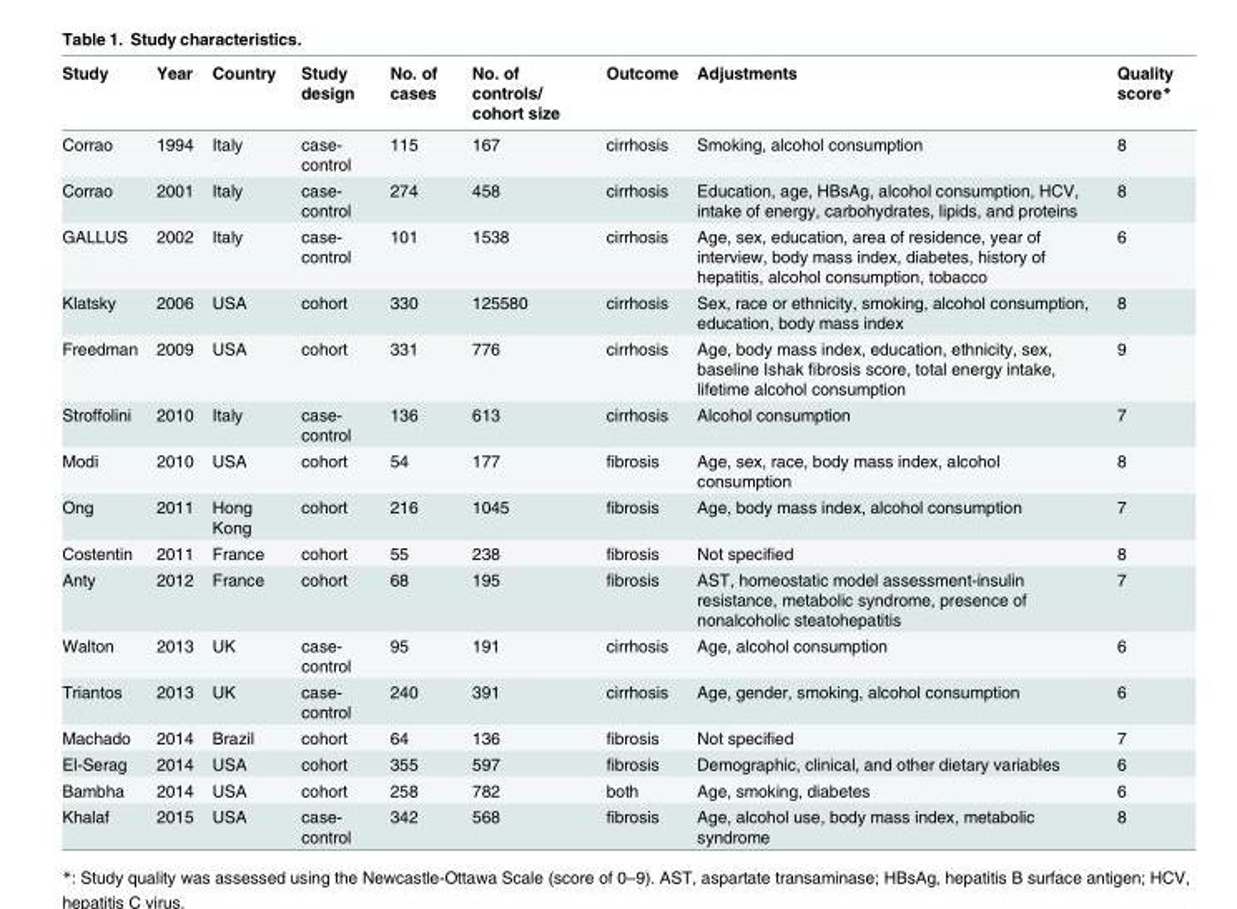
<table><thead><tr><td>Study</td><td>Year</td><td>Country</td><td>Study design</td><td>No. of cases</td><td>No. of controls/ cohort size</td><td>Outcome</td><td>Adjustments</td><td>Quality score*</td></tr></thead><tbody><tr><td>Corrao</td><td>1994</td><td>Italy</td><td>case- control</td><td>115</td><td>167</td><td>cirrhosis</td><td>Smoking, alcohol consumption</td><td>8</td></tr><tr><td>Corrao</td><td>2001</td><td>Italy</td><td>case- control</td><td>274</td><td>458</td><td>cirrhosis</td><td>Education, age, HBsAg, alcohol consumption, HCV, intake of energy, carbohydrates, lipids, and proteins</td><td>8</td></tr><tr><td>GALLUS</td><td>2002</td><td>Italy</td><td>case- control</td><td>101</td><td>1538</td><td>cirrhosis</td><td>Age, sex, education, area of residence, year of interview, body mass index, diabetes, history of hepatitis, alcohol consumption, tobacco</td><td>6</td></tr><tr><td>Klatsky</td><td>2006</td><td>USA</td><td>cohort</td><td>330</td><td>125580</td><td>cirrhosis</td><td>Sex, race or ethnicity, smoking, alcohol consumption, education, body mass index</td><td>8</td></tr><tr><td>Freedman</td><td>2009</td><td>USA</td><td>cohort</td><td>331</td><td>776</td><td>cirrhosis</td><td>Age, body mass index, education, ethnicity, sex, baseline Ishak fibrosis score, total energy intake, lifetime alcohol consumption</td><td>9</td></tr><tr><td>Stroffolini</td><td>2010</td><td>Italy</td><td>case- control</td><td>136</td><td>613</td><td>cirrhosis</td><td>Alcohol consumption</td><td>7</td></tr><tr><td>Modi</td><td>2010</td><td>USA</td><td>cohort</td><td>54</td><td>177</td><td>fibrosis</td><td>Age, sex, race, body mass index, alcohol consumption</td><td>8</td></tr><tr><td>Ong</td><td>2011</td><td>Hong Kong</td><td>cohort</td><td>216</td><td>1045</td><td>fibrosis</td><td>Age, body mass index, alcohol consumption</td><td>7</td></tr><tr><td>Costentin</td><td>2011</td><td>France</td><td>cohort</td><td>55</td><td>238</td><td>fibrosis</td><td>Not specified</td><td>8</td></tr><tr><td>Anty</td><td>2012</td><td>France</td><td>cohort</td><td>68</td><td>195</td><td>fibrosis</td><td>AST, homeostatic model assessment-insulin resistance, metabolic syndrome, presence of nonalcoholic steatohepatitis</td><td>7</td></tr><tr><td>Walton</td><td>2013</td><td>UK</td><td>case- control</td><td>95</td><td>191</td><td>cirrhosis</td><td>Age, alcohol consumption</td><td>6</td></tr><tr><td>Triantos</td><td>2013</td><td>UK</td><td>case- control</td><td>240</td><td>391</td><td>cirrhosis</td><td>Age, gender, smoking, alcohol consumption</td><td>6</td></tr><tr><td>Machado</td><td>2014</td><td>Brazil</td><td>cohort</td><td>64</td><td>136</td><td>fibrosis</td><td>Not specified</td><td>7</td></tr><tr><td>El-Serag</td><td>2014</td><td>USA</td><td>cohort</td><td>355</td><td>597</td><td>fibrosis</td><td>Demographic, clinical, and other dietary variables</td><td>6</td></tr><tr><td>Bambha</td><td>2014</td><td>USA</td><td>cohort</td><td>258</td><td>782</td><td>both</td><td>Age, smoking, diabetes</td><td>6</td></tr><tr><td>Khalaf</td><td>2015</td><td>USA</td><td>case- control</td><td>342</td><td>568</td><td>fibrosis</td><td>Age, alcohol use, body mass index, metabolic syndrome</td><td>8</td></tr></tbody></table>